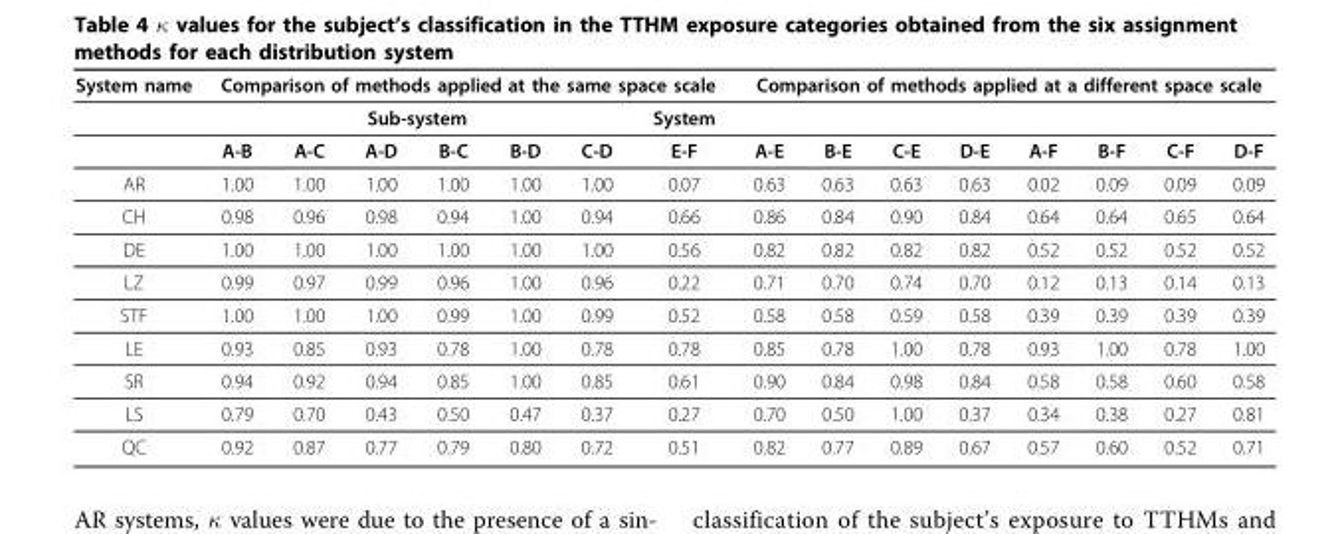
<table><thead><tr><td rowspan="3">System name</td><td colspan="7">Comparison of methods applied at the same space scale</td><td colspan="8">Comparison of methods applied at a different space scale</td></tr><tr><td colspan="6">Sub-system</td><td rowspan="2">System E-F</td><td rowspan="2">A-E</td><td rowspan="2">B-E</td><td rowspan="2">C-E</td><td rowspan="2">D-E</td><td rowspan="2">A-F</td><td rowspan="2">B-F</td><td rowspan="2">C-F</td><td rowspan="2">D-F</td></tr><tr><td>A-B</td><td>A-C</td><td>A-D</td><td>B-C</td><td>B-D</td><td>C-D</td></tr></thead><tbody><tr><td>AR</td><td>1.00</td><td>1.00</td><td>1.00</td><td>1.00</td><td>1.00</td><td>1.00</td><td>0.07</td><td>0.63</td><td>0.63</td><td>0.63</td><td>0.63</td><td>0.02</td><td>0.09</td><td>0.09</td><td>0.09</td></tr><tr><td>CH</td><td>0.98</td><td>0.96</td><td>0.98</td><td>0.94</td><td>1.00</td><td>0.94</td><td>0.66</td><td>0.86</td><td>0.84</td><td>0.90</td><td>0.84</td><td>0.64</td><td>0.64</td><td>0.65</td><td>0.64</td></tr><tr><td>DE</td><td>1.00</td><td>1.00</td><td>1.00</td><td>1.00</td><td>1.00</td><td>1.00</td><td>0.56</td><td>0.82</td><td>0.82</td><td>0.82</td><td>0.82</td><td>0.52</td><td>0.52</td><td>0.52</td><td>0.52</td></tr><tr><td>LZ</td><td>0.99</td><td>0.97</td><td>0.99</td><td>0.96</td><td>1.00</td><td>0.96</td><td>0.22</td><td>0.71</td><td>0.70</td><td>0.74</td><td>0.70</td><td>0.12</td><td>0.13</td><td>0.14</td><td>0.13</td></tr><tr><td>STF</td><td>1.00</td><td>1.00</td><td>1.00</td><td>0.99</td><td>1.00</td><td>0.99</td><td>0.52</td><td>0.58</td><td>0.58</td><td>0.59</td><td>0.58</td><td>0.39</td><td>0.39</td><td>0.39</td><td>0.39</td></tr><tr><td>LE</td><td>0.93</td><td>0.85</td><td>0.93</td><td>0.78</td><td>1.00</td><td>0.78</td><td>0.78</td><td>0.85</td><td>0.78</td><td>1.00</td><td>0.78</td><td>0.93</td><td>1.00</td><td>0.78</td><td>1.00</td></tr><tr><td>SR</td><td>0.94</td><td>0.92</td><td>0.94</td><td>0.85</td><td>1.00</td><td>0.85</td><td>0.61</td><td>0.90</td><td>0.84</td><td>0.98</td><td>0.84</td><td>0.58</td><td>0.58</td><td>0.60</td><td>0.58</td></tr><tr><td>LS</td><td>0.79</td><td>0.70</td><td>0.43</td><td>0.50</td><td>0.47</td><td>0.37</td><td>0.27</td><td>0.70</td><td>0.50</td><td>1.00</td><td>0.37</td><td>0.34</td><td>0.38</td><td>0.27</td><td>0.81</td></tr><tr><td>QC</td><td>0.92</td><td>0.87</td><td>0.77</td><td>0.79</td><td>0.80</td><td>0.72</td><td>0.51</td><td>0.82</td><td>0.77</td><td>0.89</td><td>0.67</td><td>0.57</td><td>0.60</td><td>0.52</td><td>0.71</td></tr></tbody></table>